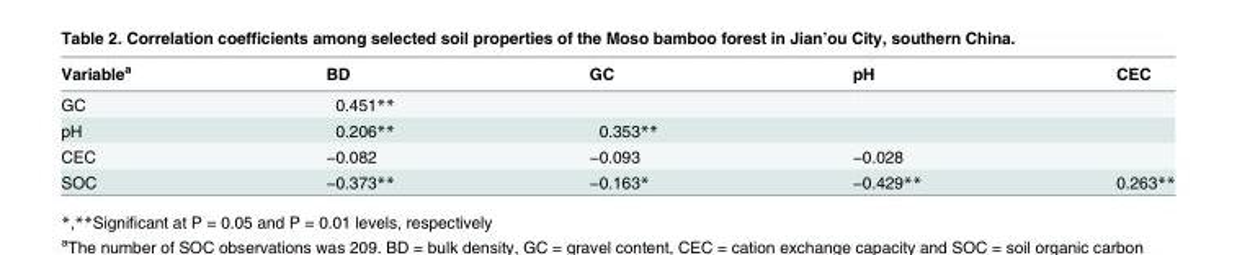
<table><thead><tr><td>Variable<sup>a</sup></td><td>BD</td><td>GC</td><td>pH</td><td>CEC</td></tr></thead><tbody><tr><td>GC</td><td>0.451**</td><td></td><td></td><td></td></tr><tr><td>pH</td><td>0.206**</td><td>0.353**</td><td></td><td></td></tr><tr><td>CEC</td><td>−0.082</td><td>−0.093</td><td>−0.028</td><td></td></tr><tr><td>SOC</td><td>−0.373**</td><td>−0.163*</td><td>−0.429**</td><td>0.263**</td></tr></tbody></table>